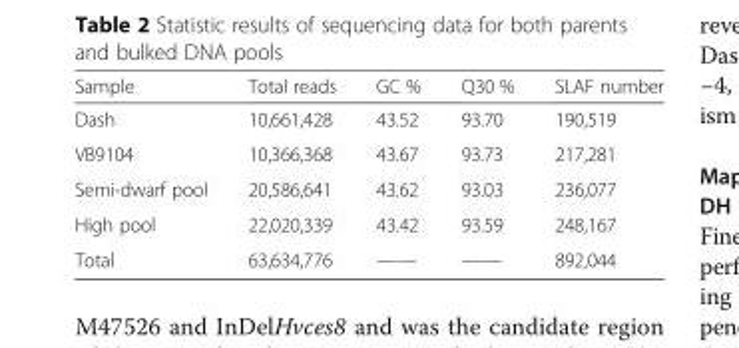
<table><thead><tr><td>Sample</td><td>Total reads</td><td>GC %</td><td>Q30 %</td><td>SLAF number</td></tr></thead><tbody><tr><td>Dash</td><td>10,661,428</td><td>43.52</td><td>93.70</td><td>190,519</td></tr><tr><td>VB9104</td><td>10,366,368</td><td>43.67</td><td>93.73</td><td>217,281</td></tr><tr><td>Semi-dwarf pool</td><td>20,586,641</td><td>43.62</td><td>93.03</td><td>236,077</td></tr><tr><td>High pool</td><td>22,020,339</td><td>43.42</td><td>93.59</td><td>248,167</td></tr><tr><td>Total</td><td>63,634,776</td><td>——</td><td>——</td><td>892,044</td></tr></tbody></table>